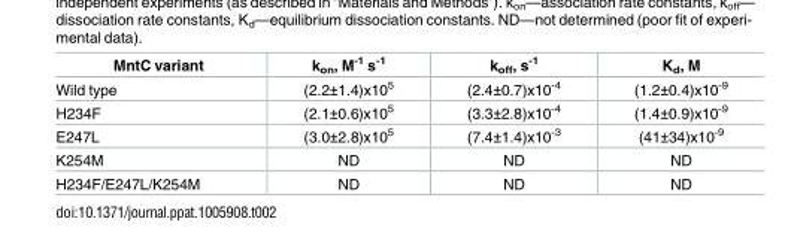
<table><thead><tr><td>MntC variant</td><td>k<sub>on</sub>, M<sup>-1</sup> s<sup>-1</sup></td><td>k<sub>off</sub>, s<sup>-1</sup></td><td>K<sub>d</sub>, M</td></tr></thead><tbody><tr><td>Wild type</td><td>(2.2±1.4)x10<sup>5</sup></td><td>(2.4±0.7)x10<sup>-4</sup></td><td>(1.2±0.4)x10<sup>-9</sup></td></tr><tr><td>H234F</td><td>(2.1±0.6)x10<sup>5</sup></td><td>(3.3±2.8)x10<sup>-4</sup></td><td>(1.4±0.9)x10<sup>-9</sup></td></tr><tr><td>E247L</td><td>(3.0±2.8)x10<sup>5</sup></td><td>(7.4±1.4)x10<sup>-3</sup></td><td>(41±34)x10<sup>-9</sup></td></tr><tr><td>K254M</td><td>ND</td><td>ND</td><td>ND</td></tr><tr><td>H234F/E247L/K254M</td><td>ND</td><td>ND</td><td>ND</td></tr></tbody></table>